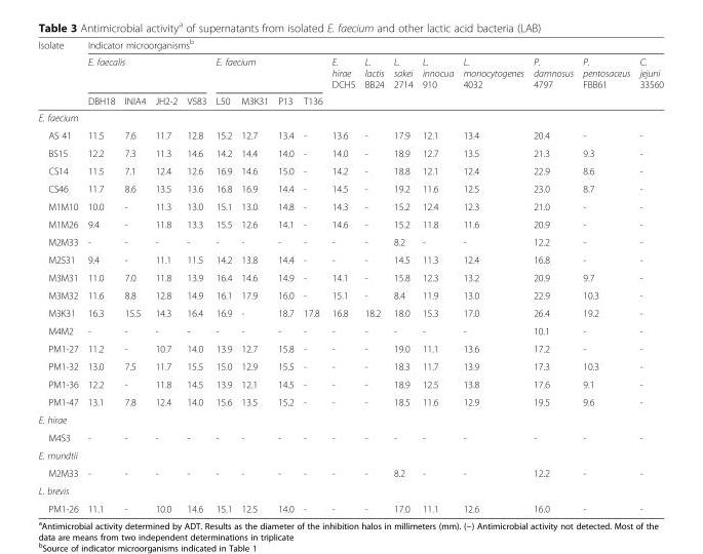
<table><thead><tr><td rowspan="3">Isolate</td><td colspan="16">Indicator microorganisms<sup>b</sup></td></tr><tr><td colspan="4">E. faecalis</td><td colspan="4">E. faecium</td><td rowspan="2">E. hirae DCH5</td><td rowspan="2">L. lactis BB24</td><td rowspan="2">L. sakei 2714</td><td rowspan="2">L. innocua 910</td><td rowspan="2">L. monocytogenes 4032</td><td rowspan="2">P. damnosus 4797</td><td rowspan="2">P. pentosaceus FBB61</td><td rowspan="2">C. jejuni 33560</td></tr><tr><td>DBH18</td><td>INIA4</td><td>JH2-2</td><td>V583</td><td>L50</td><td>M3K31</td><td>P13</td><td>T136</td></tr></thead><tbody><tr><td colspan="17">E. faecium</td></tr><tr><td>AS 41</td><td>11.5</td><td>7.6</td><td>11.7</td><td>12.8</td><td>15.2</td><td>12.7</td><td>13.4</td><td>-</td><td>13.6</td><td>-</td><td>17.9</td><td>12.1</td><td>13.4</td><td>20.4</td><td>-</td><td>-</td></tr><tr><td>BS15</td><td>12.2</td><td>7.3</td><td>11.3</td><td>14.6</td><td>14.2</td><td>14.4</td><td>14.0</td><td>-</td><td>14.0</td><td>-</td><td>18.9</td><td>12.7</td><td>13.5</td><td>21.3</td><td>9.3</td><td>-</td></tr><tr><td>CS14</td><td>11.5</td><td>7.1</td><td>12.4</td><td>12.6</td><td>16.9</td><td>14.6</td><td>15.0</td><td>-</td><td>14.2</td><td>-</td><td>18.8</td><td>12.1</td><td>12.4</td><td>22.9</td><td>8.6</td><td>-</td></tr><tr><td>CS46</td><td>11.7</td><td>8.6</td><td>13.5</td><td>13.6</td><td>16.8</td><td>16.9</td><td>14.4</td><td>-</td><td>14.5</td><td>-</td><td>19.2</td><td>11.6</td><td>12.5</td><td>23.0</td><td>8.7</td><td>-</td></tr><tr><td>M1M10</td><td>10.0</td><td>-</td><td>11.3</td><td>13.0</td><td>15.1</td><td>13.0</td><td>14.8</td><td>-</td><td>14.3</td><td>-</td><td>15.2</td><td>12.4</td><td>12.3</td><td>21.0</td><td>-</td><td>-</td></tr><tr><td>M1M26</td><td>9.4</td><td>-</td><td>11.8</td><td>13.3</td><td>15.5</td><td>12.6</td><td>14.1</td><td>-</td><td>14.6</td><td>-</td><td>15.2</td><td>11.8</td><td>11.6</td><td>20.9</td><td>-</td><td>-</td></tr><tr><td>M2M33</td><td>-</td><td>-</td><td>-</td><td>-</td><td>-</td><td>-</td><td>-</td><td>-</td><td>-</td><td>-</td><td>8.2</td><td>-</td><td>-</td><td>12.2</td><td>-</td><td>-</td></tr><tr><td>M2S31</td><td>9.4</td><td>-</td><td>11.1</td><td>11.5</td><td>14.2</td><td>13.8</td><td>14.4</td><td>-</td><td>-</td><td>-</td><td>14.5</td><td>11.3</td><td>12.4</td><td>16.8</td><td>-</td><td>-</td></tr><tr><td>M3M31</td><td>11.0</td><td>7.0</td><td>11.8</td><td>13.9</td><td>16.4</td><td>14.6</td><td>14.9</td><td>-</td><td>14.1</td><td>-</td><td>15.8</td><td>12.3</td><td>13.2</td><td>20.9</td><td>9.7</td><td>-</td></tr><tr><td>M3M32</td><td>11.6</td><td>8.8</td><td>12.8</td><td>14.9</td><td>16.1</td><td>17.9</td><td>16.0</td><td>-</td><td>15.1</td><td>-</td><td>8.4</td><td>11.9</td><td>13.0</td><td>22.9</td><td>10.3</td><td>-</td></tr><tr><td>M3K31</td><td>16.3</td><td>15.5</td><td>14.3</td><td>16.4</td><td>16.9</td><td>-</td><td>18.7</td><td>17.8</td><td>16.8</td><td>18.2</td><td>18.0</td><td>15.3</td><td>17.0</td><td>26.4</td><td>19.2</td><td>-</td></tr><tr><td>M4M2</td><td>-</td><td>-</td><td>-</td><td>-</td><td>-</td><td>-</td><td>-</td><td>-</td><td>-</td><td>-</td><td>-</td><td>-</td><td>-</td><td>10.1</td><td>-</td><td>-</td></tr><tr><td>PM1-27</td><td>11.2</td><td>-</td><td>10.7</td><td>14.0</td><td>13.9</td><td>12.7</td><td>15.8</td><td>-</td><td>-</td><td>-</td><td>19.0</td><td>11.1</td><td>13.6</td><td>17.2</td><td>-</td><td>-</td></tr><tr><td>PM1-32</td><td>13.0</td><td>7.5</td><td>11.7</td><td>15.5</td><td>15.0</td><td>12.9</td><td>15.5</td><td>-</td><td>-</td><td>-</td><td>18.3</td><td>11.7</td><td>13.9</td><td>17.3</td><td>10.3</td><td>-</td></tr><tr><td>PM1-36</td><td>12.2</td><td>-</td><td>11.8</td><td>14.5</td><td>13.9</td><td>12.1</td><td>14.5</td><td>-</td><td>-</td><td>-</td><td>18.9</td><td>12.5</td><td>13.8</td><td>17.6</td><td>9.1</td><td>-</td></tr><tr><td>PM1-47</td><td>13.1</td><td>7.8</td><td>12.4</td><td>14.0</td><td>15.6</td><td>13.5</td><td>15.2</td><td>-</td><td>-</td><td>-</td><td>18.5</td><td>11.6</td><td>12.9</td><td>19.5</td><td>9.6</td><td>-</td></tr><tr><td colspan="17">E. hirae</td></tr><tr><td>M4S3</td><td>-</td><td>-</td><td>-</td><td>-</td><td>-</td><td>-</td><td>-</td><td>-</td><td>-</td><td>-</td><td>-</td><td>-</td><td>-</td><td>-</td><td>-</td><td>-</td></tr><tr><td colspan="17">E. mundtii</td></tr><tr><td>M2M33</td><td>-</td><td>-</td><td>-</td><td>-</td><td>-</td><td>-</td><td>-</td><td>-</td><td>-</td><td>-</td><td>8.2</td><td>-</td><td>-</td><td>12.2</td><td>-</td><td>-</td></tr><tr><td colspan="17">L. brevis</td></tr><tr><td>PM1-26</td><td>11.1</td><td>-</td><td>10.0</td><td>14.6</td><td>15.1</td><td>12.5</td><td>14.0</td><td>-</td><td>-</td><td>-</td><td>17.0</td><td>11.1</td><td>12.6</td><td>16.0</td><td>-</td><td>-</td></tr></tbody></table>